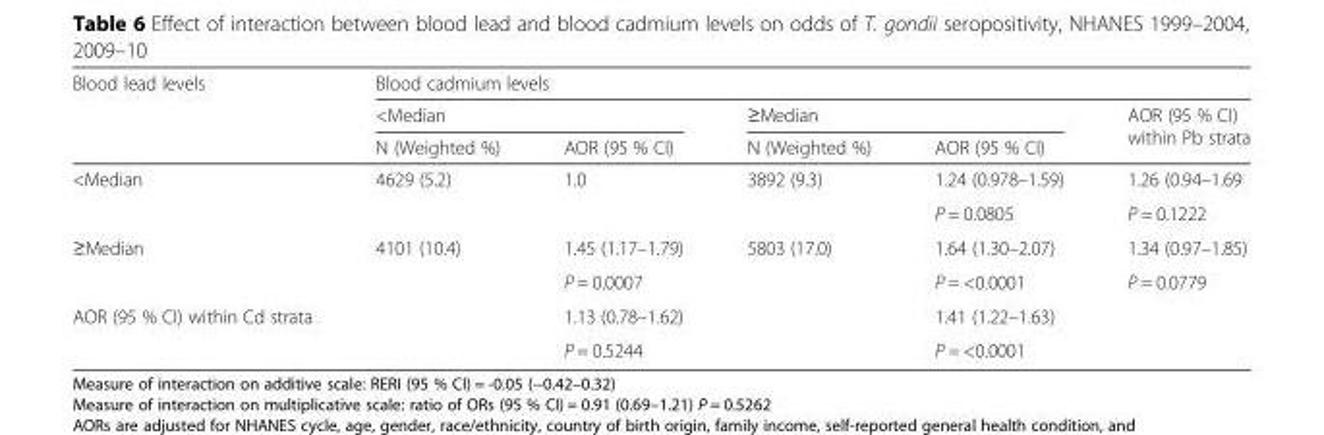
<table><thead><tr><td rowspan="3">Blood lead levels</td><td colspan="5">Blood cadmium levels</td></tr><tr><td colspan="2">&lt;Median</td><td colspan="2">≥Median</td><td rowspan="2">AOR (95 % CI) within Pb strata</td></tr><tr><td>N (Weighted %)</td><td>AOR (95 % CI)</td><td>N (Weighted %)</td><td>AOR (95 % CI)</td></tr></thead><tbody><tr><td rowspan="2">&lt;Median</td><td rowspan="2">4629 (5.2)</td><td rowspan="2">1.0</td><td rowspan="2">3892 (9.3)</td><td>1.24 (0.978–1.59)</td><td>1.26 (0.94–1.69</td></tr><tr><td>P = 0.0805</td><td>P = 0.1222</td></tr><tr><td rowspan="2">≥Median</td><td rowspan="2">4101 (10.4)</td><td>1.45 (1.17–1.79)</td><td rowspan="2">5803 (17.0)</td><td>1.64 (1.30–2.07)</td><td>1.34 (0.97–1.85)</td></tr><tr><td>P = 0.0007</td><td>P = &lt;0.0001</td><td>P = 0.0779</td></tr><tr><td rowspan="2">AOR (95 % CI) within Cd strata</td><td rowspan="2"></td><td>1.13 (0.78–1.62)</td><td rowspan="2"></td><td>1.41 (1.22–1.63)</td><td rowspan="2"></td></tr><tr><td>P = 0.5244</td><td>P = &lt;0.0001</td></tr></tbody></table>